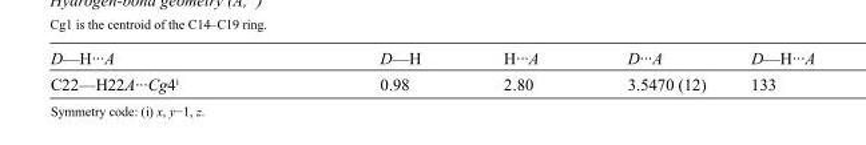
<table><tbody><tr><td>D—H···A</td><td>D—H</td><td>H···A</td><td>D···A</td><td>D—H···A</td></tr><tr><td>C22—H22A···Cg4<sup>i</sup></td><td>0.98</td><td>2.80</td><td>3.5470 (12)</td><td>133</td></tr></tbody></table>